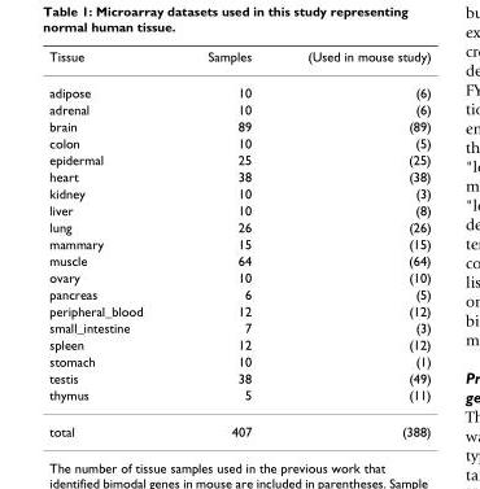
<table><thead><tr><td>Tissue</td><td>Samples</td><td>(Used in mouse study)</td></tr></thead><tbody><tr><td>adipose</td><td>10</td><td>(6)</td></tr><tr><td>adrenal</td><td>10</td><td>(6)</td></tr><tr><td>brain</td><td>89</td><td>(89)</td></tr><tr><td>colon</td><td>10</td><td>(5)</td></tr><tr><td>epidermal</td><td>25</td><td>(25)</td></tr><tr><td>heart</td><td>38</td><td>(38)</td></tr><tr><td>kidney</td><td>10</td><td>(3)</td></tr><tr><td>liver</td><td>10</td><td>(8)</td></tr><tr><td>lung</td><td>26</td><td>(26)</td></tr><tr><td>mammary</td><td>15</td><td>(15)</td></tr><tr><td>muscle</td><td>64</td><td>(64)</td></tr><tr><td>ovary</td><td>10</td><td>(10)</td></tr><tr><td>pancreas</td><td>6</td><td>(5)</td></tr><tr><td>peripheral_blood</td><td>12</td><td>(12)</td></tr><tr><td>small_intestine</td><td>7</td><td>(3)</td></tr><tr><td>spleen</td><td>12</td><td>(12)</td></tr><tr><td>stomach</td><td>10</td><td>(1)</td></tr><tr><td>testis</td><td>38</td><td>(49)</td></tr><tr><td>thymus</td><td>5</td><td>(11)</td></tr><tr><td>total</td><td>407</td><td>(388)</td></tr></tbody></table>